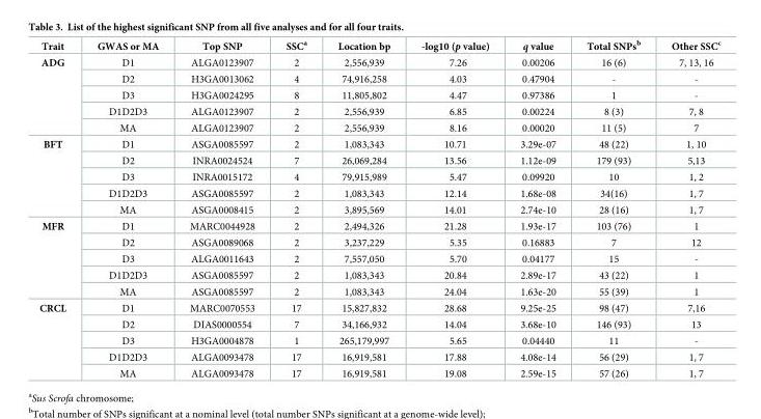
<table><thead><tr><td>Trait</td><td>GWAS or MA</td><td>Top SNP</td><td>SSC<sup>a</sup></td><td>Location bp</td><td>-log10 (p value)</td><td>q value</td><td>Total SNPs<sup>b</sup></td><td>Other SSC<sup>c</sup></td></tr></thead><tbody><tr><td rowspan="5">ADG</td><td>D1</td><td>ALGA0123907</td><td>2</td><td>2,556,939</td><td>7.26</td><td>0.00206</td><td>16 (6)</td><td>7, 13, 16</td></tr><tr><td>D2</td><td>H3GA0013062</td><td>4</td><td>74,916,258</td><td>4.03</td><td>0.47904</td><td>-</td><td>-</td></tr><tr><td>D3</td><td>H3GA0024295</td><td>8</td><td>11,805,802</td><td>4.47</td><td>0.97386</td><td>1</td><td>-</td></tr><tr><td>D1D2D3</td><td>ALGA0123907</td><td>2</td><td>2,556,939</td><td>6.85</td><td>0.00224</td><td>8 (3)</td><td>7, 8</td></tr><tr><td>MA</td><td>ALGA0123907</td><td>2</td><td>2,556,939</td><td>8.16</td><td>0.00020</td><td>11 (5)</td><td>7</td></tr><tr><td rowspan="5">BFT</td><td>D1</td><td>ASGA0085597</td><td>2</td><td>1,083,343</td><td>10.71</td><td>3.29e-07</td><td>48 (22)</td><td>1, 10</td></tr><tr><td>D2</td><td>INRA0024524</td><td>7</td><td>26,069,284</td><td>13.56</td><td>1.12e-09</td><td>179 (93)</td><td>5,13</td></tr><tr><td>D3</td><td>INRA0015172</td><td>4</td><td>79,915,989</td><td>5.47</td><td>0.09920</td><td>10</td><td>1, 2</td></tr><tr><td>D1D2D3</td><td>ASGA0085597</td><td>2</td><td>1,083,343</td><td>12.14</td><td>1.68e-08</td><td>34(16)</td><td>1, 7</td></tr><tr><td>MA</td><td>ASGA0008415</td><td>2</td><td>3,895,569</td><td>14.01</td><td>2.74e-10</td><td>28 (16)</td><td>1, 7</td></tr><tr><td rowspan="5">MFR</td><td>D1</td><td>MARC0044928</td><td>2</td><td>2,494,326</td><td>21.28</td><td>1.93e-17</td><td>103 (76)</td><td>1</td></tr><tr><td>D2</td><td>ASGA0089068</td><td>2</td><td>3,237,229</td><td>5.35</td><td>0.16883</td><td>7</td><td>12</td></tr><tr><td>D3</td><td>ALGA0011643</td><td>2</td><td>7,557,050</td><td>5.70</td><td>0.04177</td><td>15</td><td>-</td></tr><tr><td>D1D2D3</td><td>ASGA0085597</td><td>2</td><td>1,083,343</td><td>20.84</td><td>2.89e-17</td><td>43 (22)</td><td>1</td></tr><tr><td>MA</td><td>ASGA0085597</td><td>2</td><td>1,083,343</td><td>24.04</td><td>1.63e-20</td><td>55 (39)</td><td>1</td></tr><tr><td rowspan="5">CRCL</td><td>D1</td><td>MARC0070553</td><td>17</td><td>15,827,832</td><td>28.68</td><td>9.25e-25</td><td>98 (47)</td><td>7,16</td></tr><tr><td>D2</td><td>DIAS0000554</td><td>7</td><td>34,166,932</td><td>14.04</td><td>3.68e-10</td><td>146 (93)</td><td>13</td></tr><tr><td>D3</td><td>H3GA0004878</td><td>1</td><td>265,179,997</td><td>5.65</td><td>0.04440</td><td>11</td><td>-</td></tr><tr><td>D1D2D3</td><td>ALGA0093478</td><td>17</td><td>16,919,581</td><td>17.88</td><td>4.08e-14</td><td>56 (29)</td><td>1, 7</td></tr><tr><td>MA</td><td>ALGA0093478</td><td>17</td><td>16,919,581</td><td>19.08</td><td>2.59e-15</td><td>57 (26)</td><td>1, 7</td></tr></tbody></table>